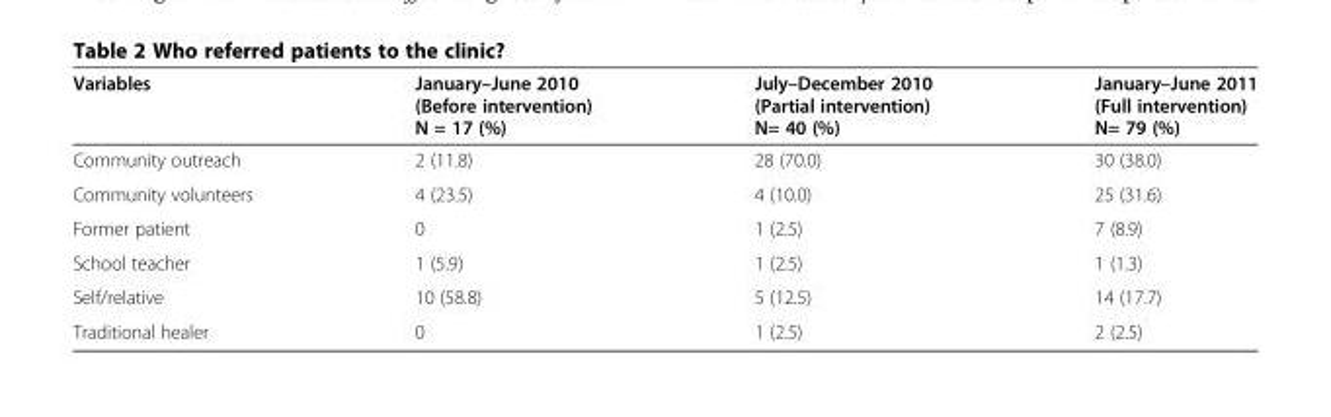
<table><thead><tr><td>Variables</td><td>January–June 2010 (Before intervention) N = 17 (%)</td><td>July–December 2010 (Partial intervention) N= 40 (%)</td><td>January–June 2011 (Full intervention) N= 79 (%)</td></tr></thead><tbody><tr><td>Community outreach</td><td>2 (11.8)</td><td>28 (70.0)</td><td>30 (38.0)</td></tr><tr><td>Community volunteers</td><td>4 (23.5)</td><td>4 (10.0)</td><td>25 (31.6)</td></tr><tr><td>Former patient</td><td>0</td><td>1 (2.5)</td><td>7 (8.9)</td></tr><tr><td>School teacher</td><td>1 (5.9)</td><td>1 (2.5)</td><td>1 (1.3)</td></tr><tr><td>Self/relative</td><td>10 (58.8)</td><td>5 (12.5)</td><td>14 (17.7)</td></tr><tr><td>Traditional healer</td><td>0</td><td>1 (2.5)</td><td>2 (2.5)</td></tr></tbody></table>